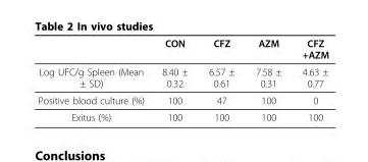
<table><thead><tr><td></td><td>CON</td><td>CFZ</td><td>AZM</td><td>CFZ +AZM</td></tr></thead><tbody><tr><td>Log UFC/g Spleen (Mean ± SD)</td><td>8.40 ± 0.32</td><td>6.57 ± 0.61</td><td>7.58 ± 0.31</td><td>4.63 ± 0.77</td></tr><tr><td>Positive blood culture (%)</td><td>100</td><td>47</td><td>100</td><td>0</td></tr><tr><td>Exitus (%)</td><td>100</td><td>100</td><td>100</td><td>100</td></tr></tbody></table>